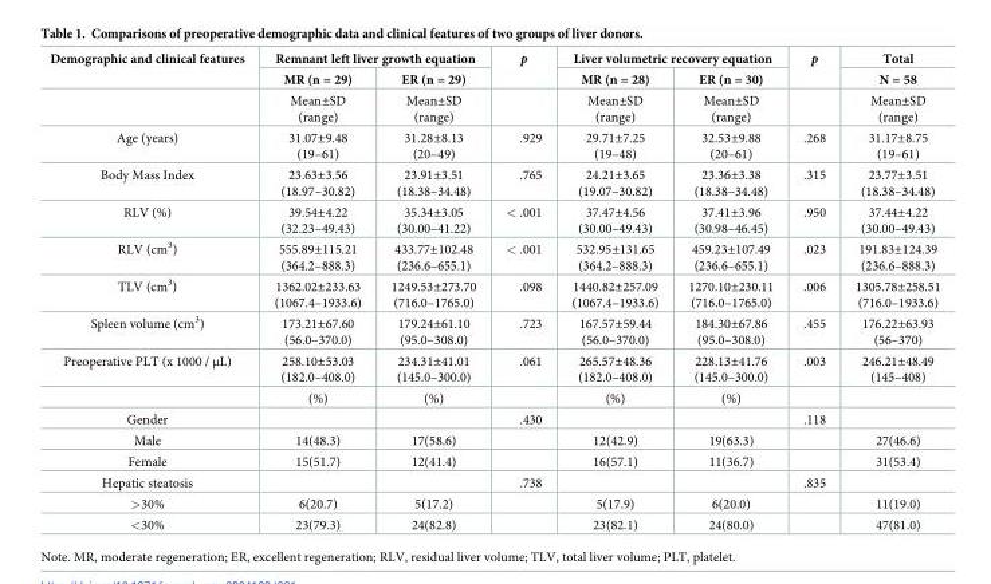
<table><thead><tr><td rowspan="2">Demographic and clinical features</td><td colspan="2">Remnant left liver growth equation</td><td rowspan="2">p</td><td colspan="2">Liver volumetric recovery equation</td><td rowspan="2">p</td><td rowspan="2">Total N = 58</td></tr><tr><td>MR (n = 29)</td><td>ER (n = 29)</td><td>MR (n = 28)</td><td>ER (n = 30)</td></tr></thead><tbody><tr><td></td><td>Mean±SD (range)</td><td>Mean±SD (range)</td><td></td><td>Mean±SD (range)</td><td>Mean±SD (range)</td><td></td><td>Mean±SD (range)</td></tr><tr><td>Age (years)</td><td>31.07±9.48 (19–61)</td><td>31.28±8.13 (20–49)</td><td>.929</td><td>29.71±7.25 (19–48)</td><td>32.53±9.88 (20–61)</td><td>.268</td><td>31.17±8.75 (19–61)</td></tr><tr><td>Body Mass Index</td><td>23.63±3.56 (18.97–30.82)</td><td>23.91±3.51 (18.38–34.48)</td><td>.765</td><td>24.21±3.65 (19.07–30.82)</td><td>23.36±3.38 (18.38–34.48)</td><td>.315</td><td>23.77±3.51 (18.38–34.48)</td></tr><tr><td>RLV (%)</td><td>39.54±4.22 (32.23–49.43)</td><td>35.34±3.05 (30.00–41.22)</td><td>&lt; .001</td><td>37.47±4.56 (30.00–49.43)</td><td>37.41±3.96 (30.98–46.45)</td><td>.950</td><td>37.44±4.22 (30.00–49.43)</td></tr><tr><td>RLV (cm<sup>3</sup>)</td><td>555.89±115.21 (364.2–888.3)</td><td>433.77±102.48 (236.6–655.1)</td><td>&lt; .001</td><td>532.95±131.65 (364.2–888.3)</td><td>459.23±107.49 (236.6–655.1)</td><td>.023</td><td>191.83±124.39 (236.6–888.3)</td></tr><tr><td>TLV (cm<sup>3</sup>)</td><td>1362.02±233.63 (1067.4–1933.6)</td><td>1249.53±273.70 (716.0–1765.0)</td><td>.098</td><td>1440.82±257.09 (1067.4–1933.6)</td><td>1270.10±230.11 (716.0–1765.0)</td><td>.006</td><td>1305.78±258.51 (716.0–1933.6)</td></tr><tr><td>Spleen volume (cm<sup>3</sup>)</td><td>173.21±67.60 (56.0–370.0)</td><td>179.24±61.10 (95.0–308.0)</td><td>.723</td><td>167.57±59.44 (56.0–370.0)</td><td>184.30±67.86 (95.0–308.0)</td><td>.455</td><td>176.22±63.93 (56–370)</td></tr><tr><td rowspan="2">Preoperative PLT (x 1000 / μL)</td><td>258.10±53.03 (182.0–408.0)</td><td>234.31±41.01 (145.0–300.0)</td><td>.061</td><td>265.57±48.36 (182.0–408.0)</td><td>228.13±41.76 (145.0–300.0)</td><td>.003</td><td>246.21±48.49 (145–408)</td></tr><tr><td>(%)</td><td>(%)</td><td></td><td>(%)</td><td>(%)</td><td></td><td></td></tr><tr><td>Gender</td><td></td><td></td><td>.430</td><td></td><td></td><td>.118</td><td></td></tr><tr><td>Male</td><td>14(48.3)</td><td>17(58.6)</td><td></td><td>12(42.9)</td><td>19(63.3)</td><td></td><td>27(46.6)</td></tr><tr><td>Female</td><td>15(51.7)</td><td>12(41.4)</td><td></td><td>16(57.1)</td><td>11(36.7)</td><td></td><td>31(53.4)</td></tr><tr><td>Hepatic steatosis</td><td></td><td></td><td>.738</td><td></td><td></td><td>.835</td><td></td></tr><tr><td>&gt;30%</td><td>6(20.7)</td><td>5(17.2)</td><td></td><td>5(17.9)</td><td>6(20.0)</td><td></td><td>11(19.0)</td></tr><tr><td>&lt;30%</td><td>23(79.3)</td><td>24(82.8)</td><td></td><td>23(82.1)</td><td>24(80.0)</td><td></td><td>47(81.0)</td></tr></tbody></table>